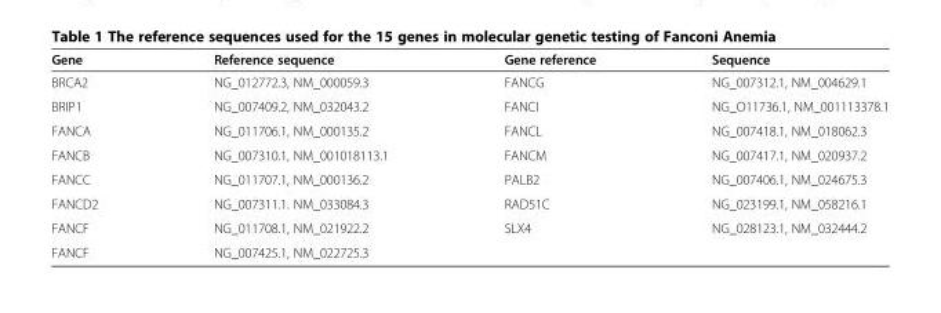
<table><thead><tr><td>Gene</td><td>Reference sequence</td><td>Gene reference</td><td>Sequence</td></tr></thead><tbody><tr><td>BRCA2</td><td>NG_012772.3, NM_000059.3</td><td>FANCG</td><td>NG_007312.1, NM_004629.1</td></tr><tr><td>BRIP1</td><td>NG_007409.2, NM_032043.2</td><td>FANCI</td><td>NG_O11736.1, NM_001113378.1</td></tr><tr><td>FANCA</td><td>NG_011706.1, NM_000135.2</td><td>FANCL</td><td>NG_007418.1, NM_018062.3</td></tr><tr><td>FANCB</td><td>NG_007310.1, NM_001018113.1</td><td>FANCM</td><td>NG_007417.1, NM_020937.2</td></tr><tr><td>FANCC</td><td>NG_011707.1, NM_000136.2</td><td>PALB2</td><td>NG_007406.1, NM_024675.3</td></tr><tr><td>FANCD2</td><td>NG_007311.1. NM_033084.3</td><td>RAD51C</td><td>NG_023199.1, NM_058216.1</td></tr><tr><td>FANCF</td><td>NG_011708.1, NM_021922.2</td><td>SLX4</td><td>NG_028123.1, NM_032444.2</td></tr><tr><td>FANCF</td><td>NG_007425.1, NM_022725.3</td><td></td><td></td></tr></tbody></table>